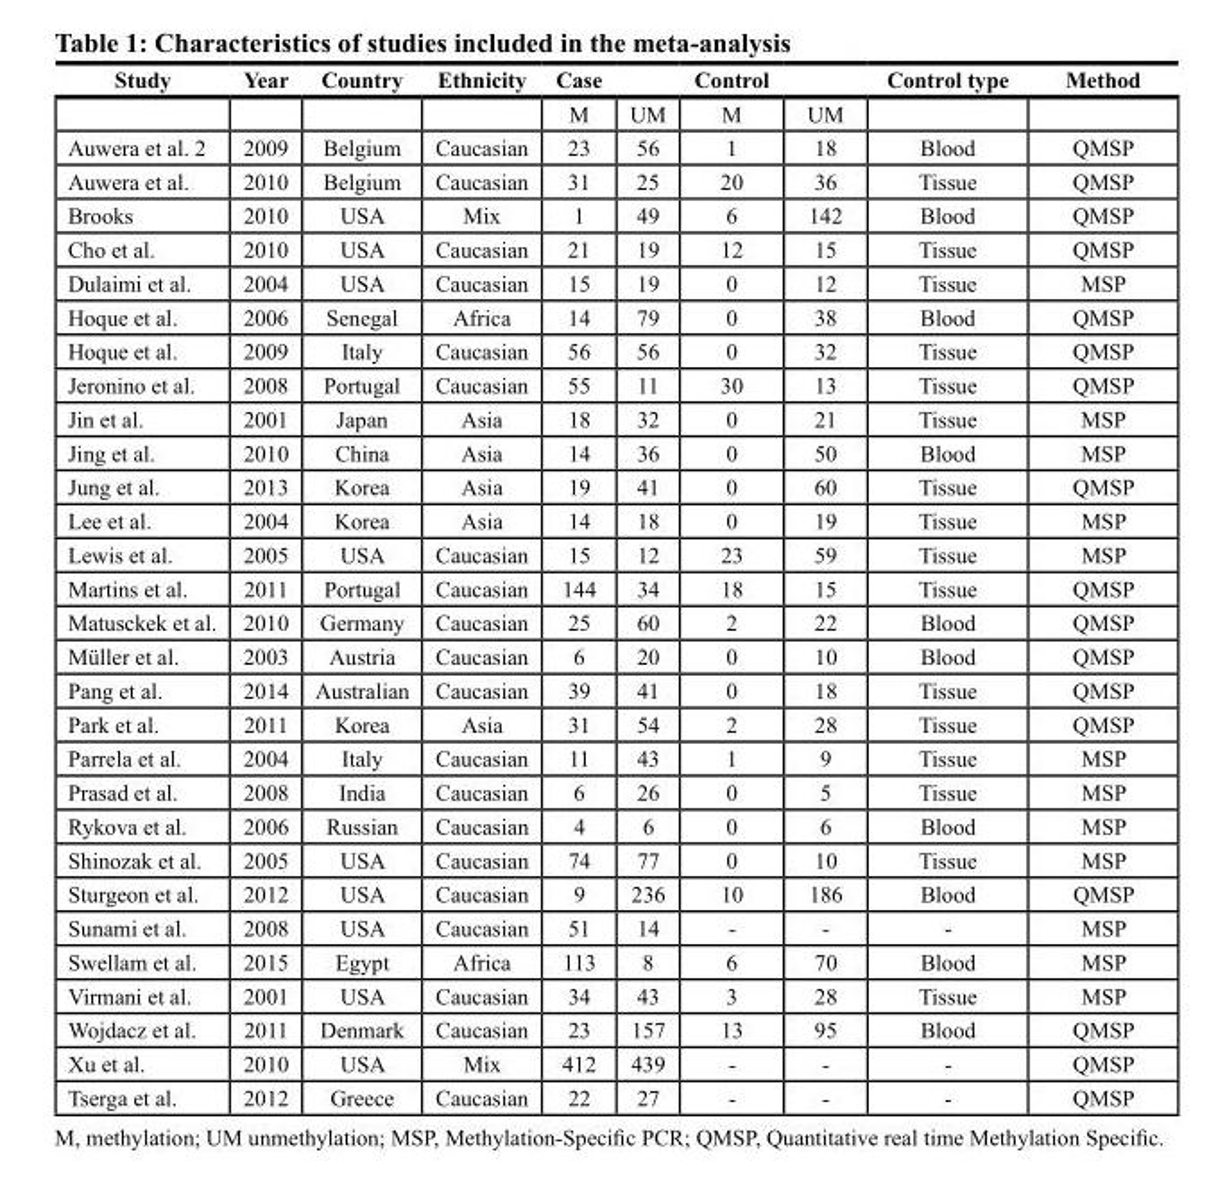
<table><thead><tr><td>Study</td><td>Year</td><td>Country</td><td>Ethnicity</td><td>Case</td><td></td><td>Control</td><td></td><td>Control type</td><td>Method</td></tr></thead><tbody><tr><td></td><td></td><td></td><td></td><td>M</td><td>UM</td><td>M</td><td>UM</td><td></td><td></td></tr><tr><td>Auwera et al. 2</td><td>2009</td><td>Belgium</td><td>Caucasian</td><td>23</td><td>56</td><td>1</td><td>18</td><td>Blood</td><td>QMSP</td></tr><tr><td>Auwera et al.</td><td>2010</td><td>Belgium</td><td>Caucasian</td><td>31</td><td>25</td><td>20</td><td>36</td><td>Tissue</td><td>QMSP</td></tr><tr><td>Brooks</td><td>2010</td><td>USA</td><td>Mix</td><td>1</td><td>49</td><td>6</td><td>142</td><td>Blood</td><td>QMSP</td></tr><tr><td>Cho et al.</td><td>2010</td><td>USA</td><td>Caucasian</td><td>21</td><td>19</td><td>12</td><td>15</td><td>Tissue</td><td>QMSP</td></tr><tr><td>Dulaimi et al.</td><td>2004</td><td>USA</td><td>Caucasian</td><td>15</td><td>19</td><td>0</td><td>12</td><td>Tissue</td><td>MSP</td></tr><tr><td>Hoque et al.</td><td>2006</td><td>Senegal</td><td>Africa</td><td>14</td><td>79</td><td>0</td><td>38</td><td>Blood</td><td>QMSP</td></tr><tr><td>Hoque et al.</td><td>2009</td><td>Italy</td><td>Caucasian</td><td>56</td><td>56</td><td>0</td><td>32</td><td>Tissue</td><td>QMSP</td></tr><tr><td>Jeronino et al.</td><td>2008</td><td>Portugal</td><td>Caucasian</td><td>55</td><td>11</td><td>30</td><td>13</td><td>Tissue</td><td>QMSP</td></tr><tr><td>Jin et al.</td><td>2001</td><td>Japan</td><td>Asia</td><td>18</td><td>32</td><td>0</td><td>21</td><td>Tissue</td><td>MSP</td></tr><tr><td>Jing et al.</td><td>2010</td><td>China</td><td>Asia</td><td>14</td><td>36</td><td>0</td><td>50</td><td>Blood</td><td>MSP</td></tr><tr><td>Jung et al.</td><td>2013</td><td>Korea</td><td>Asia</td><td>19</td><td>41</td><td>0</td><td>60</td><td>Tissue</td><td>QMSP</td></tr><tr><td>Lee et al.</td><td>2004</td><td>Korea</td><td>Asia</td><td>14</td><td>18</td><td>0</td><td>19</td><td>Tissue</td><td>MSP</td></tr><tr><td>Lewis et al.</td><td>2005</td><td>USA</td><td>Caucasian</td><td>15</td><td>12</td><td>23</td><td>59</td><td>Tissue</td><td>MSP</td></tr><tr><td>Martins et al.</td><td>2011</td><td>Portugal</td><td>Caucasian</td><td>144</td><td>34</td><td>18</td><td>15</td><td>Tissue</td><td>QMSP</td></tr><tr><td>Matusckek et al.</td><td>2010</td><td>Germany</td><td>Caucasian</td><td>25</td><td>60</td><td>2</td><td>22</td><td>Blood</td><td>QMSP</td></tr><tr><td>Müller et al.</td><td>2003</td><td>Austria</td><td>Caucasian</td><td>6</td><td>20</td><td>0</td><td>10</td><td>Blood</td><td>QMSP</td></tr><tr><td>Pang et al.</td><td>2014</td><td>Australian</td><td>Caucasian</td><td>39</td><td>41</td><td>0</td><td>18</td><td>Tissue</td><td>QMSP</td></tr><tr><td>Park et al.</td><td>2011</td><td>Korea</td><td>Asia</td><td>31</td><td>54</td><td>2</td><td>28</td><td>Tissue</td><td>QMSP</td></tr><tr><td>Parrela et al.</td><td>2004</td><td>Italy</td><td>Caucasian</td><td>11</td><td>43</td><td>1</td><td>9</td><td>Tissue</td><td>MSP</td></tr><tr><td>Prasad et al.</td><td>2008</td><td>India</td><td>Caucasian</td><td>6</td><td>26</td><td>0</td><td>5</td><td>Tissue</td><td>MSP</td></tr><tr><td>Rykova et al.</td><td>2006</td><td>Russian</td><td>Caucasian</td><td>4</td><td>6</td><td>0</td><td>6</td><td>Blood</td><td>MSP</td></tr><tr><td>Shinozak et al.</td><td>2005</td><td>USA</td><td>Caucasian</td><td>74</td><td>77</td><td>0</td><td>10</td><td>Tissue</td><td>MSP</td></tr><tr><td>Sturgeon et al.</td><td>2012</td><td>USA</td><td>Caucasian</td><td>9</td><td>236</td><td>10</td><td>186</td><td>Blood</td><td>QMSP</td></tr><tr><td>Sunami et al.</td><td>2008</td><td>USA</td><td>Caucasian</td><td>51</td><td>14</td><td>-</td><td>-</td><td>-</td><td>MSP</td></tr><tr><td>Swellam et al.</td><td>2015</td><td>Egypt</td><td>Africa</td><td>113</td><td>8</td><td>6</td><td>70</td><td>Blood</td><td>MSP</td></tr><tr><td>Virmani et al.</td><td>2001</td><td>USA</td><td>Caucasian</td><td>34</td><td>43</td><td>3</td><td>28</td><td>Tissue</td><td>MSP</td></tr><tr><td>Wojdacz et al.</td><td>2011</td><td>Denmark</td><td>Caucasian</td><td>23</td><td>157</td><td>13</td><td>95</td><td>Blood</td><td>QMSP</td></tr><tr><td>Xu et al.</td><td>2010</td><td>USA</td><td>Mix</td><td>412</td><td>439</td><td>-</td><td>-</td><td>-</td><td>QMSP</td></tr><tr><td>Tserga et al.</td><td>2012</td><td>Greece</td><td>Caucasian</td><td>22</td><td>27</td><td>-</td><td>-</td><td>-</td><td>QMSP</td></tr></tbody></table>